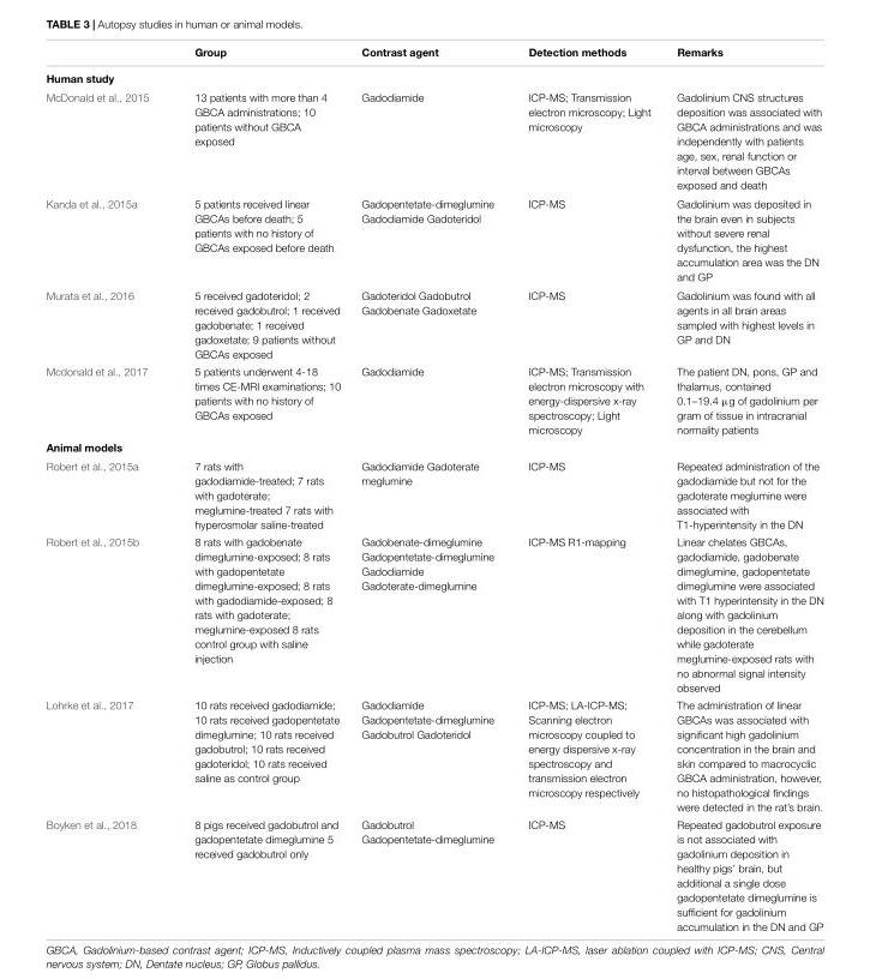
<table><thead><tr><td></td><td>Group</td><td>Contrast agent</td><td>Detection methods</td><td>Remarks</td></tr></thead><tbody><tr><td colspan="5">Human study</td></tr><tr><td>McDonald et al., 2015</td><td>13 patients with more than 4 GBCA administrations; 10 patients without GBCA exposed</td><td>Gadodiamide</td><td>ICP-MS; Transmission electron microscopy; Light microscopy</td><td>Gadolinium CNS structures deposition was associated with GBCA administrations and was independently with patients age, sex, renal function or interval between GBCAs exposed and death</td></tr><tr><td>Kanda et al., 2015a</td><td>5 patients received linear GBCAs before death; 5 patients with no history of GBCAs exposed before death</td><td>Gadopentetate-dimeglumine Gadodiamide Gadoteridol</td><td>ICP-MS</td><td>Gadolinium was deposited in the brain even in subjects without severe renal dysfunction, the highest accumulation area was the DN and GP</td></tr><tr><td>Murata et al., 2016</td><td>5 received gadoteridol; 2 received gadobutrol; 1 received gadobenate; 1 received gadoxetate; 9 patients without GBCAs exposed</td><td>Gadoteridol Gadobutrol Gadobenate Gadoxetate</td><td>ICP-MS</td><td>Gadolinium was found with all agents in all brain areas sampled with highest levels in GP and DN</td></tr><tr><td>Mcdonald et al., 2017</td><td>5 patients underwent 4-18 times CE-MRI examinations; 10 patients with no history of GBCAs exposed</td><td>Gadodiamide</td><td>ICP-MS; Transmission electron microscopy with energy-dispersive x-ray spectroscopy; Light microscopy</td><td>The patient DN, pons, GP and thalamus, contained 0.1–19.4 µg of gadolinium per gram of tissue in intracranial normality patients</td></tr><tr><td colspan="5">Animal models</td></tr><tr><td>Robert et al., 2015a</td><td>7 rats with gadodiamide-treated; 7 rats with gadoterate; meglumine-treated 7 rats with hyperosmolar saline-treated</td><td>Gadodiamide Gadoterate meglumine</td><td>ICP-MS</td><td>Repeated administration of the gadodiamide but not for the gadoterate meglumine were associated with T1-hyperintensity in the DN</td></tr><tr><td>Robert et al., 2015b</td><td>8 rats with gadobenate dimeglumine-exposed; 8 rats with gadopentetate dimeglumine-exposed; 8 rats with gadodiamide-exposed; 8 rats with gadoterate; meglumine-exposed 8 rats control group with saline injection</td><td>Gadobenate-dimeglumine Gadopentetate-dimeglumine Gadodiamide Gadoterate-dimeglumine</td><td>ICP-MS R1-mapping</td><td>Linear chelates GBCAs, gadodiamide, gadobenate dimeglumine, gadopentetate dimeglumine were associated with T1 hyperintensity in the DN along with gadolinium deposition in the cerebellum while gadoterate meglumine-exposed rats with no abnormal signal intensity observed</td></tr><tr><td>Lohrke et al., 2017</td><td>10 rats received gadodiamide; 10 rats received gadopentetate dimeglumine; 10 rats received gadobutrol; 10 rats received gadoteridol; 10 rats received saline as control group</td><td>Gadodiamide Gadopentetate-dimeglumine Gadobutrol Gadoteridol</td><td>ICP-MS; LA-ICP-MS; Scanning electron microscopy coupled to energy dispersive x-ray spectroscopy and transmission electron microscopy respectively</td><td>The administration of linear GBCAs was associated with significant high gadolinium concentration in the brain and skin compared to macrocyclic GBCA administration, however, no histopathological findings were detected in the rat’s brain.</td></tr><tr><td>Boyken et al., 2018</td><td>8 pigs received gadobutrol and gadopentetate dimeglumine 5 received gadobutrol only</td><td>Gadobutrol Gadopentetate-dimeglumine</td><td>ICP-MS</td><td>Repeated gadobutrol exposure is not associated with gadolinium deposition in healthy pigs’ brain, but additional a single dose gadopentetate dimeglumine is sufficient for gadolinium accumulation in the DN and GP</td></tr></tbody></table>